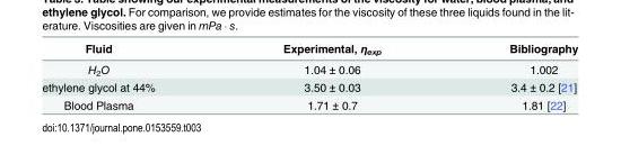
<table><thead><tr><td>Fluid</td><td>Experimental, η<sub>exp</sub></td><td>Bibliography</td></tr></thead><tbody><tr><td>H<sub>2</sub>O</td><td>1.04 ± 0.06</td><td>1.002</td></tr><tr><td>ethylene glycol at 44%</td><td>3.50 ± 0.03</td><td>3.4 ± 0.2 [21]</td></tr><tr><td>Blood Plasma</td><td>1.71 ± 0.7</td><td>1.81 [22]</td></tr></tbody></table>